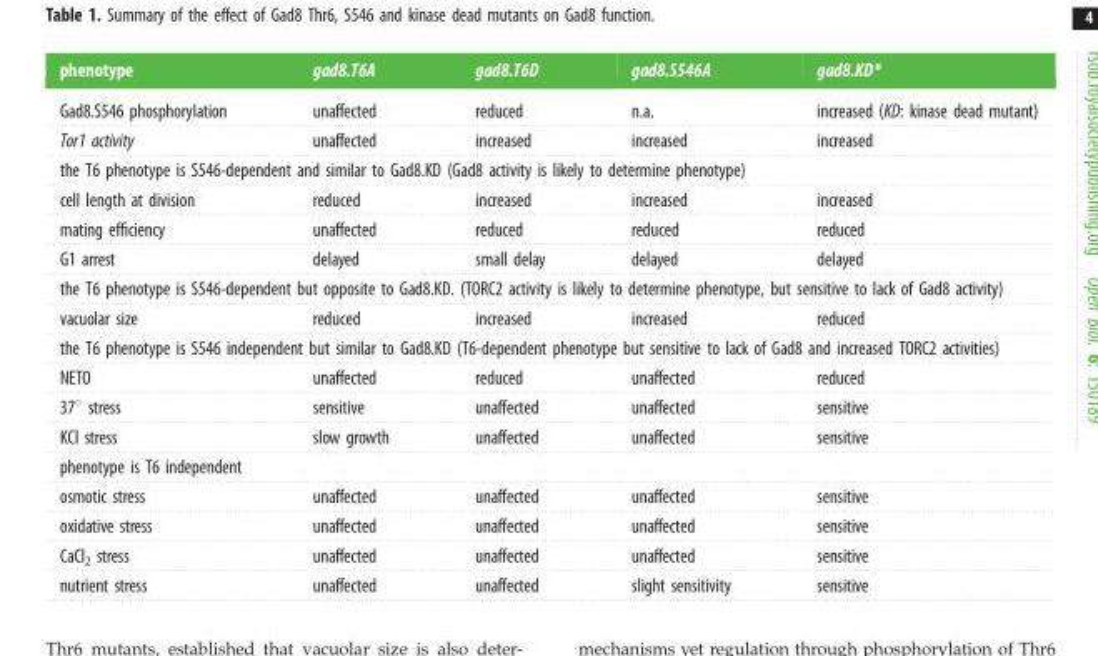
<table><thead><tr><td>phenotype</td><td>gad8.T6A</td><td>gad8.T6D</td><td>gad8.S546A</td><td>gad8.KD*</td></tr></thead><tbody><tr><td>Gad8.S546 phosphorylation</td><td>unaffected</td><td>reduced</td><td>n.a.</td><td>increased (KD: kinase dead mutant)</td></tr><tr><td>Tor1 activity</td><td>unaffected</td><td>increased</td><td>increased</td><td>increased</td></tr><tr><td colspan="5">the T6 phenotype is S546-dependent and similar to Gad8.KD (Gad8 activity is likely to determine phenotype)</td></tr><tr><td>cell length at division</td><td>reduced</td><td>increased</td><td>increased</td><td>increased</td></tr><tr><td>mating efficiency</td><td>unaffected</td><td>reduced</td><td>reduced</td><td>reduced</td></tr><tr><td>G1 arrest</td><td>delayed</td><td>small delay</td><td>delayed</td><td>delayed</td></tr><tr><td colspan="5">the T6 phenotype is S546-dependent but opposite to Gad8.KD. (TORC2 activity is likely to determine phenotype, but sensitive to lack of Gad8 activity)</td></tr><tr><td>vacuolar size</td><td>reduced</td><td>increased</td><td>increased</td><td>reduced</td></tr><tr><td colspan="5">the T6 phenotype is S546 independent but similar to Gad8.KD (T6-dependent phenotype but sensitive to lack of Gad8 and increased TORC2 activities)</td></tr><tr><td>NETO</td><td>unaffected</td><td>reduced</td><td>unaffected</td><td>reduced</td></tr><tr><td>37° stress</td><td>sensitive</td><td>unaffected</td><td>unaffected</td><td>sensitive</td></tr><tr><td>KCl stress</td><td>slow growth</td><td>unaffected</td><td>unaffected</td><td>sensitive</td></tr><tr><td colspan="5">phenotype is T6 independent</td></tr><tr><td>osmotic stress</td><td>unaffected</td><td>unaffected</td><td>unaffected</td><td>sensitive</td></tr><tr><td>oxidative stress</td><td>unaffected</td><td>unaffected</td><td>unaffected</td><td>sensitive</td></tr><tr><td>CaCl<sub>2</sub> stress</td><td>unaffected</td><td>unaffected</td><td>unaffected</td><td>sensitive</td></tr><tr><td>nutrient stress</td><td>unaffected</td><td>unaffected</td><td>slight sensitivity</td><td>sensitive</td></tr></tbody></table>